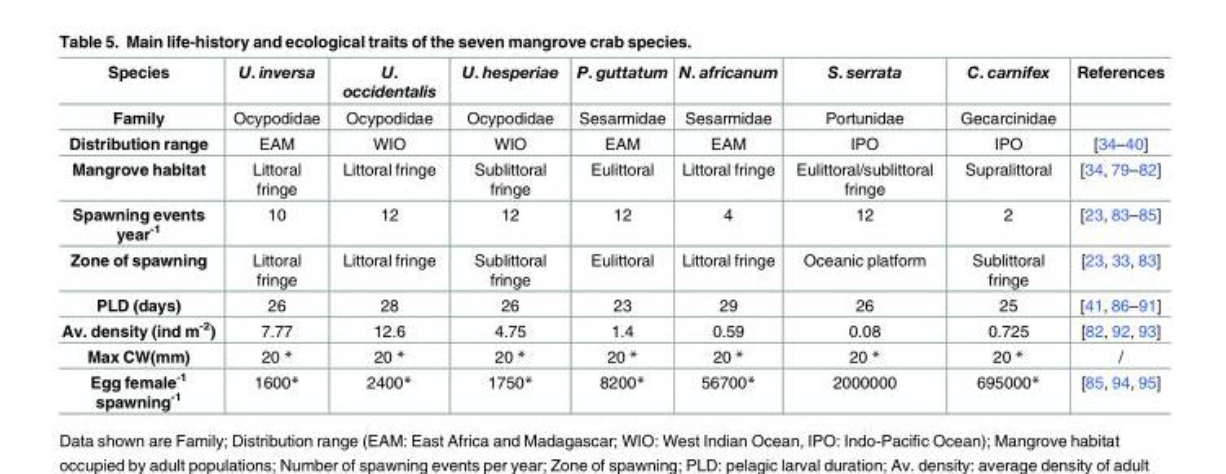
<table><thead><tr><td>Species</td><td>U. inversa</td><td>U. occidentalis</td><td>U. hesperiae</td><td>P. guttatum</td><td>N. africanum</td><td>S. serrata</td><td>C. carnifex</td><td>References</td></tr></thead><tbody><tr><td>Family</td><td>Ocypodidae</td><td>Ocypodidae</td><td>Ocypodidae</td><td>Sesarmidae</td><td>Sesarmidae</td><td>Portunidae</td><td>Gecarcinidae</td><td></td></tr><tr><td>Distribution range</td><td>EAM</td><td>WIO</td><td>WIO</td><td>EAM</td><td>EAM</td><td>IPO</td><td>IPO</td><td>[34–40]</td></tr><tr><td>Mangrove habitat</td><td>Littoral fringe</td><td>Littoral fringe</td><td>Sublittoral fringe</td><td>Eulittoral</td><td>Littoral fringe</td><td>Eulittoral/sublittoral fringe</td><td>Supralittoral</td><td>[34, 79–82]</td></tr><tr><td>Spawning events year<sup>-1</sup></td><td>10</td><td>12</td><td>12</td><td>12</td><td>4</td><td>12</td><td>2</td><td>[23, 83–85]</td></tr><tr><td>Zone of spawning</td><td>Littoral fringe</td><td>Littoral fringe</td><td>Sublittoral fringe</td><td>Eulittoral</td><td>Littoral fringe</td><td>Oceanic platform</td><td>Sublittoral fringe</td><td>[23, 33, 83]</td></tr><tr><td>PLD (days)</td><td>26</td><td>28</td><td>26</td><td>23</td><td>29</td><td>26</td><td>25</td><td>[41, 86–91]</td></tr><tr><td>Av. density (ind m<sup>-2</sup>)</td><td>7.77</td><td>12.6</td><td>4.75</td><td>1.4</td><td>0.59</td><td>0.08</td><td>0.725</td><td>[82, 92, 93]</td></tr><tr><td>Max CW(mm)</td><td>20 *</td><td>20 *</td><td>20 *</td><td>20 *</td><td>20 *</td><td>20 *</td><td>20 *</td><td>/</td></tr><tr><td>Egg female<sup>-1</sup> spawning<sup>-1</sup></td><td>1600*</td><td>2400*</td><td>1750*</td><td>8200*</td><td>56700*</td><td>2000000</td><td>695000*</td><td>[85, 94, 95]</td></tr></tbody></table>